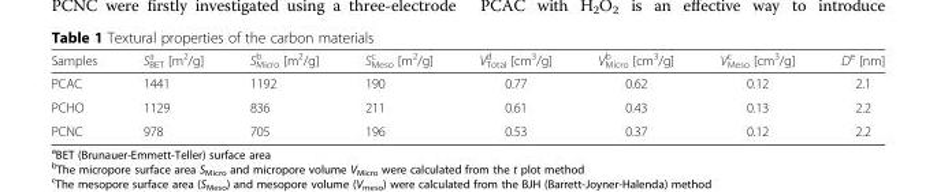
<table><thead><tr><td>Samples</td><td>S<sub>BET</sub> <sup>a</sup> [m<sup>2</sup>/g]</td><td>S<sub>Micro</sub> <sup>b</sup> [m<sup>2</sup>/g]</td><td>S<sub>Meso</sub> <sup>c</sup> [m<sup>2</sup>/g]</td><td>V<sub>Total</sub> <sup>d</sup> [cm<sup>3</sup>/g]</td><td>V<sub>Micro</sub> <sup>b</sup> [cm<sup>3</sup>/g]</td><td>V<sub>Meso</sub> <sup>c</sup> [cm<sup>3</sup>/g]</td><td>D<sup>e</sup> [nm]</td></tr></thead><tbody><tr><td>PCAC</td><td>1441</td><td>1192</td><td>190</td><td>0.77</td><td>0.62</td><td>0.12</td><td>2.1</td></tr><tr><td>PCHO</td><td>1129</td><td>836</td><td>211</td><td>0.61</td><td>0.43</td><td>0.13</td><td>2.2</td></tr><tr><td>PCNC</td><td>978</td><td>705</td><td>196</td><td>0.53</td><td>0.37</td><td>0.12</td><td>2.2</td></tr></tbody></table>